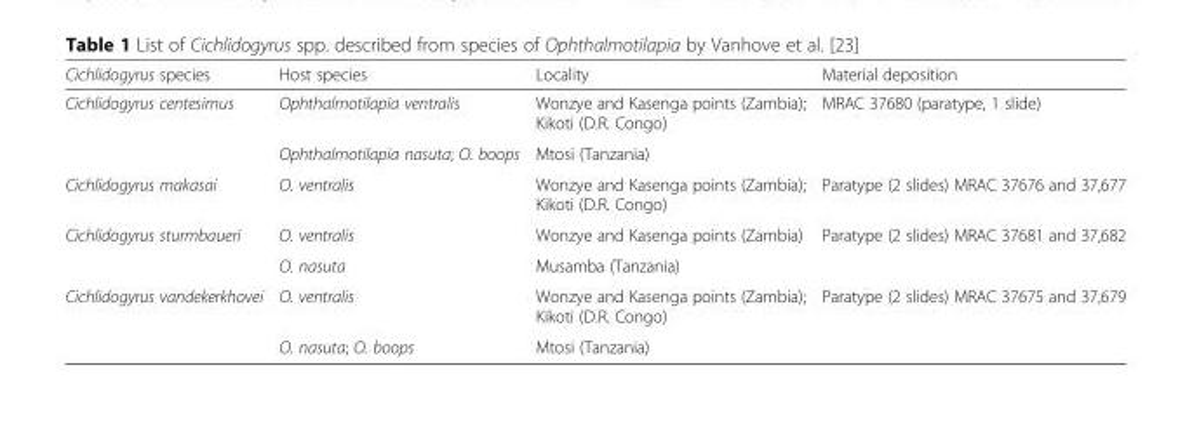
<table><thead><tr><td>Cichlidogyrus species</td><td>Host species</td><td>Locality</td><td>Material deposition</td></tr></thead><tbody><tr><td rowspan="2">Cichlidogyrus centesimus</td><td>Ophthalmotilapia ventralis</td><td>Wonzye and Kasenga points (Zambia); Kikoti (D.R. Congo)</td><td>MRAC 37680 (paratype, 1 slide)</td></tr><tr><td>Ophthalmotilapia nasuta; O. boops</td><td>Mtosi (Tanzania)</td><td></td></tr><tr><td>Cichlidogyrus makasai</td><td>O. ventralis</td><td>Wonzye and Kasenga points (Zambia); Kikoti (D.R. Congo)</td><td>Paratype (2 slides) MRAC 37676 and 37,677</td></tr><tr><td rowspan="2">Cichlidogyrus sturmbaueri</td><td>O. ventralis</td><td>Wonzye and Kasenga points (Zambia)</td><td>Paratype (2 slides) MRAC 37681 and 37,682</td></tr><tr><td>O. nasuta</td><td>Musamba (Tanzania)</td><td></td></tr><tr><td rowspan="2">Cichlidogyrus vandekerkhovei</td><td>O. ventralis</td><td>Wonzye and Kasenga points (Zambia); Kikoti (D.R. Congo)</td><td>Paratype (2 slides) MRAC 37675 and 37,679</td></tr><tr><td>O. nasuta; O. boops</td><td>Mtosi (Tanzania)</td><td></td></tr></tbody></table>